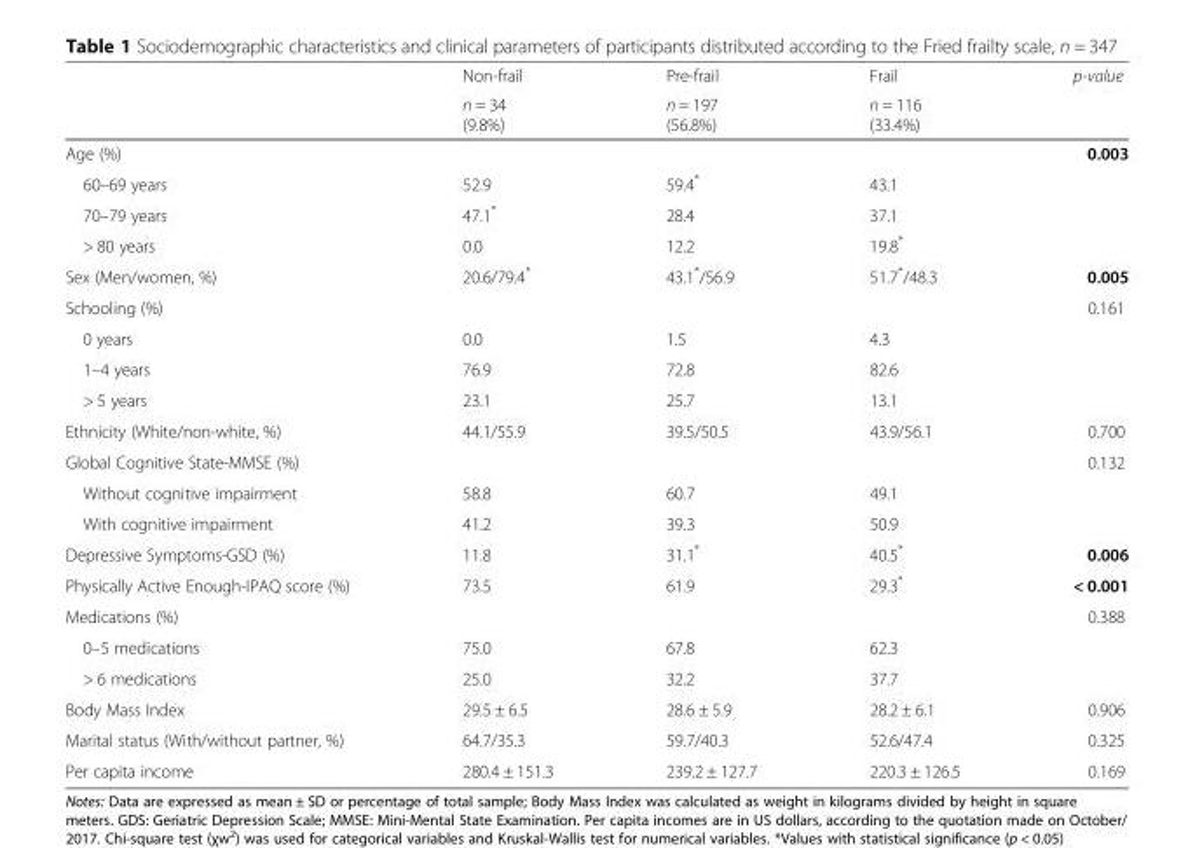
<table><thead><tr><td rowspan="2"></td><td rowspan="2">Non-frail n = 34 (9.8%)</td><td rowspan="2">Pre-frail n = 197 (56.8%)</td><td rowspan="2">Frail n = 116 (33.4%)</td><td rowspan="2">p-value</td></tr><tr></tr></thead><tbody><tr><td>Age (%)</td><td></td><td></td><td></td><td>0.003</td></tr><tr><td>60–69 years</td><td>52.9</td><td>59.4*</td><td>43.1</td><td></td></tr><tr><td>70–79 years</td><td>47.1*</td><td>28.4</td><td>37.1</td><td></td></tr><tr><td>&gt; 80 years</td><td>0.0</td><td>12.2</td><td>19.8*</td><td></td></tr><tr><td>Sex (Men/women, %)</td><td>20.6/79.4*</td><td>43.1*/56.9</td><td>51.7*/48.3</td><td>0.005</td></tr><tr><td>Schooling (%)</td><td></td><td></td><td></td><td>0.161</td></tr><tr><td>0 years</td><td>0.0</td><td>1.5</td><td>4.3</td><td></td></tr><tr><td>1–4 years</td><td>76.9</td><td>72.8</td><td>82.6</td><td></td></tr><tr><td>&gt; 5 years</td><td>23.1</td><td>25.7</td><td>13.1</td><td></td></tr><tr><td>Ethnicity (White/non-white, %)</td><td>44.1/55.9</td><td>39.5/50.5</td><td>43.9/56.1</td><td>0.700</td></tr><tr><td>Global Cognitive State-MMSE (%)</td><td></td><td></td><td></td><td>0.132</td></tr><tr><td>Without cognitive impairment</td><td>58.8</td><td>60.7</td><td>49.1</td><td></td></tr><tr><td>With cognitive impairment</td><td>41.2</td><td>39.3</td><td>50.9</td><td></td></tr><tr><td>Depressive Symptoms-GSD (%)</td><td>11.8</td><td>31.1*</td><td>40.5*</td><td>0.006</td></tr><tr><td>Physically Active Enough-IPAQ score (%)</td><td>73.5</td><td>61.9</td><td>29.3*</td><td>&lt; 0.001</td></tr><tr><td>Medications (%)</td><td></td><td></td><td></td><td>0.388</td></tr><tr><td>0–5 medications</td><td>75.0</td><td>67.8</td><td>62.3</td><td></td></tr><tr><td>&gt; 6 medications</td><td>25.0</td><td>32.2</td><td>37.7</td><td></td></tr><tr><td>Body Mass Index</td><td>29.5 ± 6.5</td><td>28.6 ± 5.9</td><td>28.2 ± 6.1</td><td>0.906</td></tr><tr><td>Marital status (With/without partner, %)</td><td>64.7/35.3</td><td>59.7/40.3</td><td>52.6/47.4</td><td>0.325</td></tr><tr><td>Per capita income</td><td>280.4 ± 151.3</td><td>239.2 ± 127.7</td><td>220.3 ± 126.5</td><td>0.169</td></tr></tbody></table>